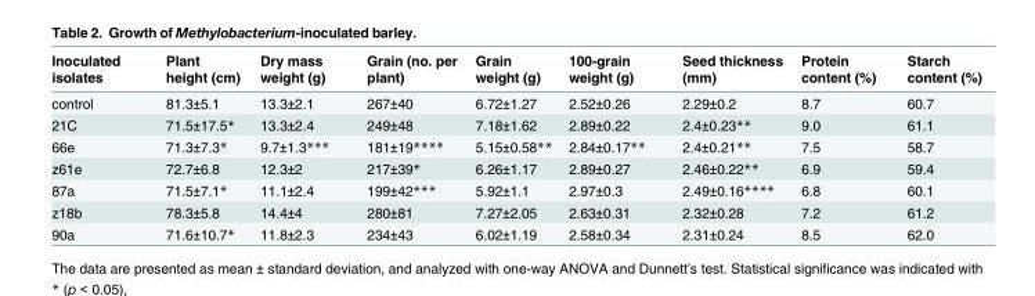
<table><thead><tr><td>Inoculated isolates</td><td>Plant height (cm)</td><td>Dry mass weight (g)</td><td>Grain (no. per plant)</td><td>Grain weight (g)</td><td>100-grain weight (g)</td><td>Seed thickness (mm)</td><td>Protein content (%)</td><td>Starch content (%)</td></tr></thead><tbody><tr><td>control</td><td>81.3±5.1</td><td>13.3±2.1</td><td>267±40</td><td>6.72±1.27</td><td>2.52±0.26</td><td>2.29±0.2</td><td>8.7</td><td>60.7</td></tr><tr><td>21C</td><td>71.5±17.5*</td><td>13.3±2.4</td><td>249±48</td><td>7.18±1.62</td><td>2.89±0.22</td><td>2.4±0.23**</td><td>9.0</td><td>61.1</td></tr><tr><td>66e</td><td>71.3±7.3*</td><td>9.7±1.3***</td><td>181±19****</td><td>5.15±0.58**</td><td>2.84±0.17**</td><td>2.4±0.21**</td><td>7.5</td><td>58.7</td></tr><tr><td>z61e</td><td>72.7±6.8</td><td>12.3±2</td><td>217±39*</td><td>6.26±1.17</td><td>2.89±0.27</td><td>2.46±0.22**</td><td>6.9</td><td>59.4</td></tr><tr><td>87a</td><td>71.5±7.1*</td><td>11.1±2.4</td><td>199±42***</td><td>5.92±1.1</td><td>2.97±0.3</td><td>2.49±0.16****</td><td>6.8</td><td>60.1</td></tr><tr><td>z18b</td><td>78.3±5.8</td><td>14.4±4</td><td>280±81</td><td>7.27±2.05</td><td>2.63±0.31</td><td>2.32±0.28</td><td>7.2</td><td>61.2</td></tr><tr><td>90a</td><td>71.6±10.7*</td><td>11.8±2.3</td><td>234±43</td><td>6.02±1.19</td><td>2.58±0.34</td><td>2.31±0.24</td><td>8.5</td><td>62.0</td></tr></tbody></table>